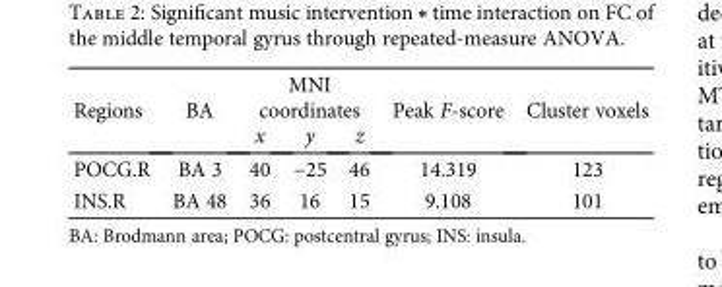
<table><thead><tr><td rowspan="2">Regions</td><td rowspan="2">BA</td><td colspan="3">MNI coordinates</td><td rowspan="2">Peak F-score</td><td rowspan="2">Cluster voxels</td></tr><tr><td>x</td><td>y</td><td>z</td></tr></thead><tbody><tr><td>POCG.R</td><td>BA 3</td><td>40</td><td>−25</td><td>46</td><td>14.319</td><td>123</td></tr><tr><td>INS.R</td><td>BA 48</td><td>36</td><td>16</td><td>15</td><td>9.108</td><td>101</td></tr></tbody></table>